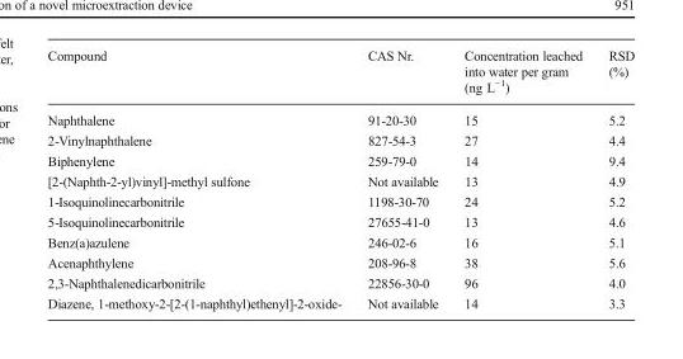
<table><thead><tr><td>Compound</td><td>CAS Nr.</td><td>Concentration leached into water per gram (ng L<sup>−1</sup>)</td><td>RSD (%)</td></tr></thead><tbody><tr><td>Naphthalene</td><td>91-20-30</td><td>15</td><td>5.2</td></tr><tr><td>2-Vinylnaphthalene</td><td>827-54-3</td><td>27</td><td>4.4</td></tr><tr><td>Biphenylene</td><td>259-79-0</td><td>14</td><td>9.4</td></tr><tr><td>[2-(Naphth-2-yl)vinyl]-methyl sulfone</td><td>Not available</td><td>13</td><td>4.9</td></tr><tr><td>1-Isoquinolinecarbonitrile</td><td>1198-30-70</td><td>24</td><td>5.2</td></tr><tr><td>5-Isoquinolinecarbonitrile</td><td>27655-41-0</td><td>13</td><td>4.6</td></tr><tr><td>Benz(a)azulene</td><td>246-02-6</td><td>16</td><td>5.1</td></tr><tr><td>Acenaphthylene</td><td>208-96-8</td><td>38</td><td>5.6</td></tr><tr><td>2,3-Naphthalenedicarbonitrile</td><td>22856-30-0</td><td>96</td><td>4.0</td></tr><tr><td>Diazene, 1-methoxy-2-[2-(1-naphthyl)ethenyl]-2-oxide-</td><td>Not available</td><td>14</td><td>3.3</td></tr></tbody></table>